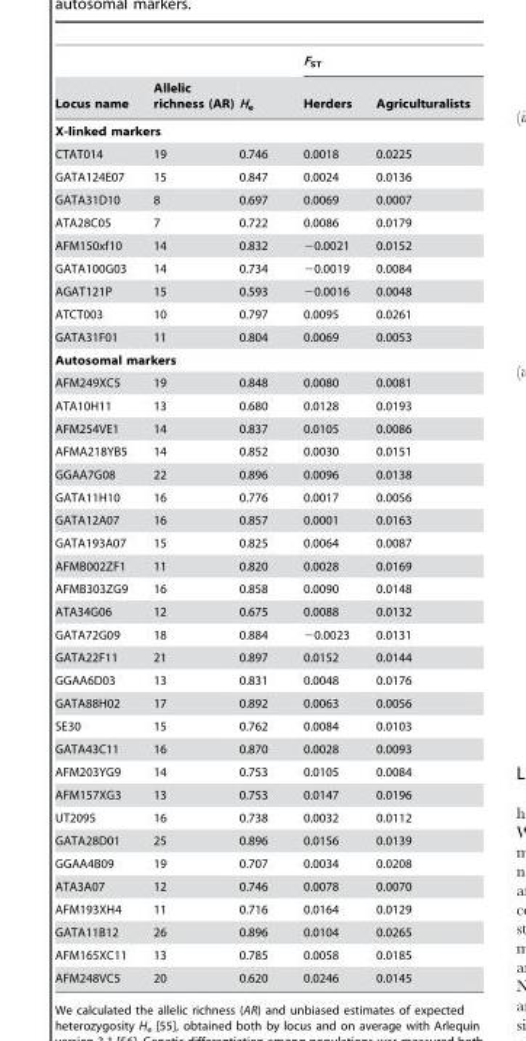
<table><thead><tr><td rowspan="2">Locus name</td><td rowspan="2">Allelic richness (AR)</td><td rowspan="2">H<sub>e</sub></td><td colspan="2">F<sub>ST</sub></td></tr><tr><td>Herders</td><td>Agriculturalists</td></tr></thead><tbody><tr><td colspan="5">X-linked markers</td></tr><tr><td>CTAT014</td><td>19</td><td>0.746</td><td>0.0018</td><td>0.0225</td></tr><tr><td>GATA124E07</td><td>15</td><td>0.847</td><td>0.0024</td><td>0.0136</td></tr><tr><td>GATA31D10</td><td>8</td><td>0.697</td><td>0.0069</td><td>0.0007</td></tr><tr><td>ATA28C05</td><td>7</td><td>0.722</td><td>0.0086</td><td>0.0179</td></tr><tr><td>AFM150xf10</td><td>14</td><td>0.832</td><td>−0.0021</td><td>0.0152</td></tr><tr><td>GATA100G03</td><td>14</td><td>0.734</td><td>−0.0019</td><td>0.0084</td></tr><tr><td>AGAT121P</td><td>15</td><td>0.593</td><td>−0.0016</td><td>0.0048</td></tr><tr><td>ATCT003</td><td>10</td><td>0.797</td><td>0.0095</td><td>0.0261</td></tr><tr><td>GATA31F01</td><td>11</td><td>0.804</td><td>0.0069</td><td>0.0053</td></tr><tr><td colspan="5">Autosomal markers</td></tr><tr><td>AFM249XC5</td><td>19</td><td>0.848</td><td>0.0080</td><td>0.0081</td></tr><tr><td>ATA10H11</td><td>13</td><td>0.680</td><td>0.0128</td><td>0.0193</td></tr><tr><td>AFM254VE1</td><td>14</td><td>0.837</td><td>0.0105</td><td>0.0086</td></tr><tr><td>AFMA218YB5</td><td>14</td><td>0.852</td><td>0.0030</td><td>0.0151</td></tr><tr><td>GGAA7G08</td><td>22</td><td>0.896</td><td>0.0096</td><td>0.0138</td></tr><tr><td>GATA11H10</td><td>16</td><td>0.776</td><td>0.0017</td><td>0.0056</td></tr><tr><td>GATA12A07</td><td>16</td><td>0.857</td><td>0.0001</td><td>0.0163</td></tr><tr><td>GATA193A07</td><td>15</td><td>0.825</td><td>0.0064</td><td>0.0087</td></tr><tr><td>AFMB002ZF1</td><td>11</td><td>0.820</td><td>0.0028</td><td>0.0169</td></tr><tr><td>AFMB303ZG9</td><td>16</td><td>0.858</td><td>0.0090</td><td>0.0148</td></tr><tr><td>ATA34G06</td><td>12</td><td>0.675</td><td>0.0088</td><td>0.0132</td></tr><tr><td>GATA72G09</td><td>18</td><td>0.884</td><td>−0.0023</td><td>0.0131</td></tr><tr><td>GATA22F11</td><td>21</td><td>0.897</td><td>0.0152</td><td>0.0144</td></tr><tr><td>GGAA6D03</td><td>13</td><td>0.831</td><td>0.0048</td><td>0.0176</td></tr><tr><td>GATA88H02</td><td>17</td><td>0.892</td><td>0.0063</td><td>0.0056</td></tr><tr><td>SE30</td><td>15</td><td>0.762</td><td>0.0084</td><td>0.0103</td></tr><tr><td>GATA43C11</td><td>16</td><td>0.870</td><td>0.0028</td><td>0.0093</td></tr><tr><td>AFM203YG9</td><td>14</td><td>0.753</td><td>0.0105</td><td>0.0084</td></tr><tr><td>AFM157XG3</td><td>13</td><td>0.753</td><td>0.0147</td><td>0.0196</td></tr><tr><td>UT2095</td><td>16</td><td>0.738</td><td>0.0032</td><td>0.0112</td></tr><tr><td>GATA28D01</td><td>25</td><td>0.896</td><td>0.0156</td><td>0.0139</td></tr><tr><td>GGAA4B09</td><td>19</td><td>0.707</td><td>0.0034</td><td>0.0208</td></tr><tr><td>ATA3A07</td><td>12</td><td>0.746</td><td>0.0078</td><td>0.0070</td></tr><tr><td>AFM193XH4</td><td>11</td><td>0.716</td><td>0.0164</td><td>0.0129</td></tr><tr><td>GATA11B12</td><td>26</td><td>0.896</td><td>0.0104</td><td>0.0265</td></tr><tr><td>AFM165XC11</td><td>13</td><td>0.785</td><td>0.0058</td><td>0.0185</td></tr><tr><td>AFM248VC5</td><td>20</td><td>0.620</td><td>0.0246</td><td>0.0145</td></tr></tbody></table>